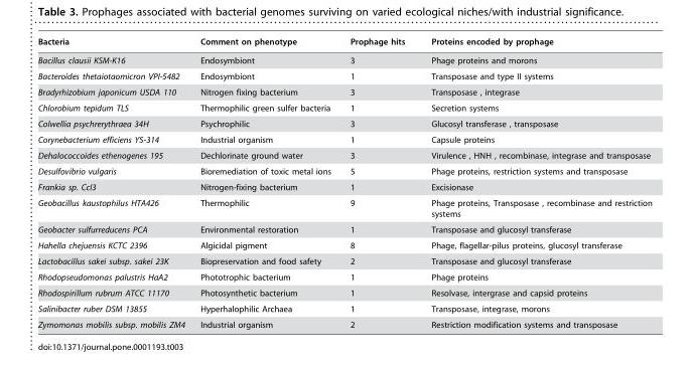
<table><thead><tr><td>Bacteria</td><td>Comment on phenotype</td><td>Prophage hits</td><td>Proteins encoded by prophage</td></tr></thead><tbody><tr><td>Bacillus clausii KSM-K16</td><td>Endosymbiont</td><td>3</td><td>Phage proteins and morons</td></tr><tr><td>Bacteroides thetaiotaomicron VPI-5482</td><td>Endosymbiont</td><td>1</td><td>Transposase and type II systems</td></tr><tr><td>Bradyrhizobium japonicum USDA 110</td><td>Nitrogen fixing bacterium</td><td>3</td><td>Transposase , integrase</td></tr><tr><td>Chlorobium tepidum TLS</td><td>Thermophilic green sulfer bacteria</td><td>1</td><td>Secretion systems</td></tr><tr><td>Colwellia psychrerythraea 34H</td><td>Psychrophilic</td><td>3</td><td>Glucosyl transferase , transposase</td></tr><tr><td>Corynebacterium efficiens YS-314</td><td>Industrial organism</td><td>1</td><td>Capsule proteins</td></tr><tr><td>Dehalococcoides ethenogenes 195</td><td>Dechlorinate ground water</td><td>3</td><td>Virulence , HNH , recombinase, integrase and transposase</td></tr><tr><td>Desulfovibrio vulgaris</td><td>Bioremediation of toxic metal ions</td><td>5</td><td>Phage proteins, restriction systems and transposase</td></tr><tr><td>Frankia sp. CcI3</td><td>Nitrogen-fixing bacterium</td><td>1</td><td>Excisionase</td></tr><tr><td>Geobacillus kaustophilus HTA426</td><td>Thermophilic</td><td>9</td><td>Phage proteins, Transposase , recombinase and restriction systems</td></tr><tr><td>Geobacter sulfurreducens PCA</td><td>Environmental restoration</td><td>1</td><td>Transposase and glucosyl transferase</td></tr><tr><td>Hahella chejuensis KCTC 2396</td><td>Algicidal pigment</td><td>8</td><td>Phage, flagellar-pilus proteins, glucosyl transferase</td></tr><tr><td>Lactobacillus sakei subsp. sakei 23K</td><td>Biopreservation and food safety</td><td>2</td><td>Transposase and glucosyl transferase</td></tr><tr><td>Rhodopseudomonas palustris HaA2</td><td>Phototrophic bacterium</td><td>1</td><td>Phage proteins</td></tr><tr><td>Rhodospirillum rubrum ATCC 11170</td><td>Photosynthetic bacterium</td><td>1</td><td>Resolvase, intergrase and capsid proteins</td></tr><tr><td>Salinibacter ruber DSM 13855</td><td>Hyperhalophilic Archaea</td><td>1</td><td>Transposase, integrase, morons</td></tr><tr><td>Zymomonas mobilis subsp. mobilis ZM4</td><td>Industrial organism</td><td>2</td><td>Restriction modification systems and transposase</td></tr></tbody></table>